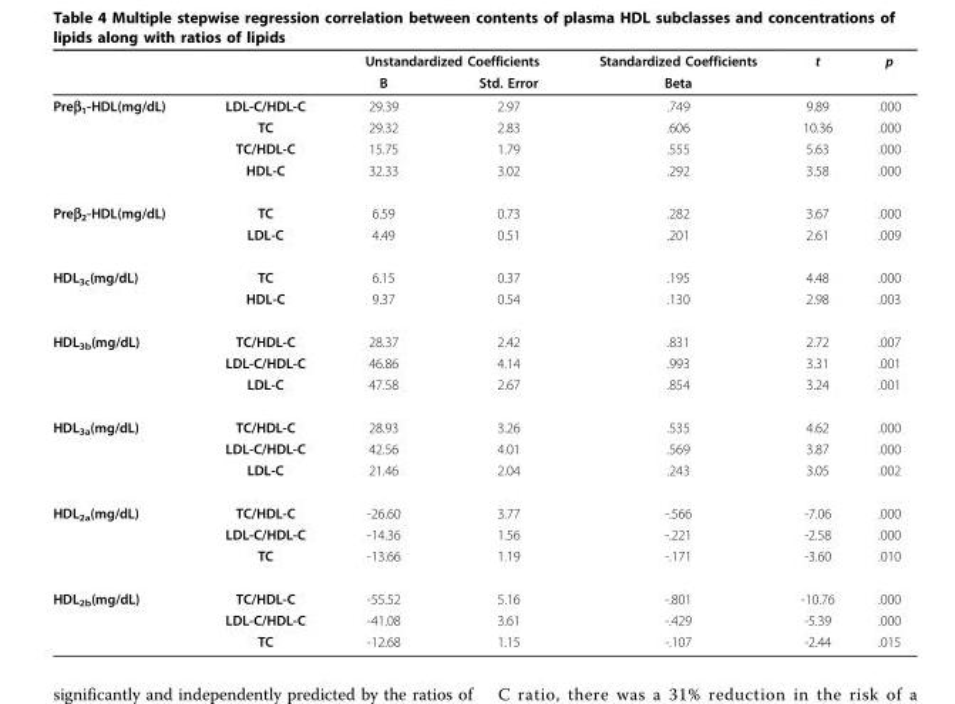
<table><thead><tr><td rowspan="2"></td><td rowspan="2"></td><td colspan="2">Unstandardized Coefficients</td><td rowspan="2">Standardized Coefficients Beta</td><td rowspan="2">t</td><td rowspan="2">p</td></tr><tr><td>B</td><td>Std. Error</td></tr></thead><tbody><tr><td rowspan="4">Preβ<sub>1</sub>-HDL(mg/dL)</td><td>LDL-C/HDL-C</td><td>29.39</td><td>2.97</td><td>.749</td><td>9.89</td><td>.000</td></tr><tr><td>TC</td><td>29.32</td><td>2.83</td><td>.606</td><td>10.36</td><td>.000</td></tr><tr><td>TC/HDL-C</td><td>15.75</td><td>1.79</td><td>.555</td><td>5.63</td><td>.000</td></tr><tr><td>HDL-C</td><td>32.33</td><td>3.02</td><td>.292</td><td>3.58</td><td>.000</td></tr><tr><td rowspan="2">Preβ<sub>2</sub>-HDL(mg/dL)</td><td>TC</td><td>6.59</td><td>0.73</td><td>.282</td><td>3.67</td><td>.000</td></tr><tr><td>LDL-C</td><td>4.49</td><td>0.51</td><td>.201</td><td>2.61</td><td>.009</td></tr><tr><td rowspan="2">HDL<sub>3c</sub>(mg/dL)</td><td>TC</td><td>6.15</td><td>0.37</td><td>.195</td><td>4.48</td><td>.000</td></tr><tr><td>HDL-C</td><td>9.37</td><td>0.54</td><td>.130</td><td>2.98</td><td>.003</td></tr><tr><td rowspan="3">HDL<sub>3b</sub>(mg/dL)</td><td>TC/HDL-C</td><td>28.37</td><td>2.42</td><td>.831</td><td>2.72</td><td>.007</td></tr><tr><td>LDL-C/HDL-C</td><td>46.86</td><td>4.14</td><td>.993</td><td>3.31</td><td>.001</td></tr><tr><td>LDL-C</td><td>47.58</td><td>2.67</td><td>.854</td><td>3.24</td><td>.001</td></tr><tr><td rowspan="3">HDL<sub>3a</sub>(mg/dL)</td><td>TC/HDL-C</td><td>28.93</td><td>3.26</td><td>.535</td><td>4.62</td><td>.000</td></tr><tr><td>LDL-C/HDL-C</td><td>42.56</td><td>4.01</td><td>.569</td><td>3.87</td><td>.000</td></tr><tr><td>LDL-C</td><td>21.46</td><td>2.04</td><td>.243</td><td>3.05</td><td>.002</td></tr><tr><td rowspan="3">HDL<sub>2a</sub>(mg/dL)</td><td>TC/HDL-C</td><td>-26.60</td><td>3.77</td><td>-.566</td><td>-7.06</td><td>.000</td></tr><tr><td>LDL-C/HDL-C</td><td>-14.36</td><td>1.56</td><td>-.221</td><td>-2.58</td><td>.000</td></tr><tr><td>TC</td><td>-13.66</td><td>1.19</td><td>-.171</td><td>-3.60</td><td>.010</td></tr><tr><td rowspan="3">HDL<sub>2b</sub>(mg/dL)</td><td>TC/HDL-C</td><td>-55.52</td><td>5.16</td><td>-.801</td><td>-10.76</td><td>.000</td></tr><tr><td>LDL-C/HDL-C</td><td>-41.08</td><td>3.61</td><td>-.429</td><td>-5.39</td><td>.000</td></tr><tr><td>TC</td><td>-12.68</td><td>1.15</td><td>-.107</td><td>-2.44</td><td>.015</td></tr></tbody></table>